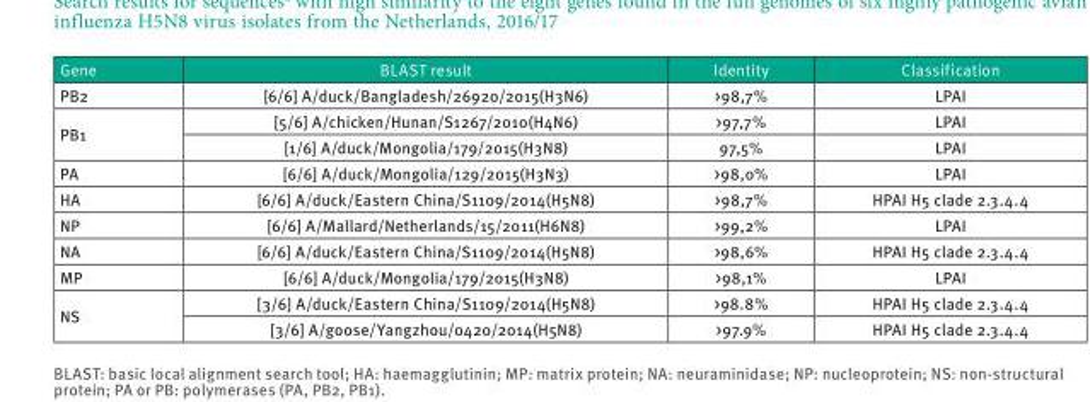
<table><thead><tr><td>Gene</td><td>BLAST result</td><td>Identity</td><td>Classification</td></tr></thead><tbody><tr><td>PB2</td><td>[6/6] A/duck/Bangladesh/26920/2015(H3N6)</td><td>&gt;98,7%</td><td>LPAI</td></tr><tr><td rowspan="2">PB1</td><td>[5/6] A/chicken/Hunan/S1267/2010(H4N6)</td><td>&gt;97,7%</td><td>LPAI</td></tr><tr><td>[1/6] A/duck/Mongolia/179/2015(H3N8)</td><td>97,5%</td><td>LPAI</td></tr><tr><td>PA</td><td>[6/6] A/duck/Mongolia/129/2015(H3N3)</td><td>&gt;98,0%</td><td>LPAI</td></tr><tr><td>HA</td><td>[6/6] A/duck/Eastern China/S1109/2014(H5N8)</td><td>&gt;98,7%</td><td>HPAI H5 clade 2.3.4.4</td></tr><tr><td>NP</td><td>[6/6] A/Mallard/Netherlands/15/2011(H6N8)</td><td>&gt;99,2%</td><td>LPAI</td></tr><tr><td>NA</td><td>[6/6] A/duck/Eastern China/S1109/2014(H5N8)</td><td>&gt;98,6%</td><td>HPAI H5 clade 2.3.4.4</td></tr><tr><td>MP</td><td>[6/6] A/duck/Mongolia/179/2015(H3N8)</td><td>&gt;98,1%</td><td>LPAI</td></tr><tr><td rowspan="2">NS</td><td>[3/6] A/duck/Eastern China/S1109/2014(H5N8)</td><td>&gt;98.8%</td><td>HPAI H5 clade 2.3.4.4</td></tr><tr><td>[3/6] A/goose/Yangzhou/0420/2014(H5N8)</td><td>&gt;97.9%</td><td>HPAI H5 clade 2.3.4.4</td></tr></tbody></table>